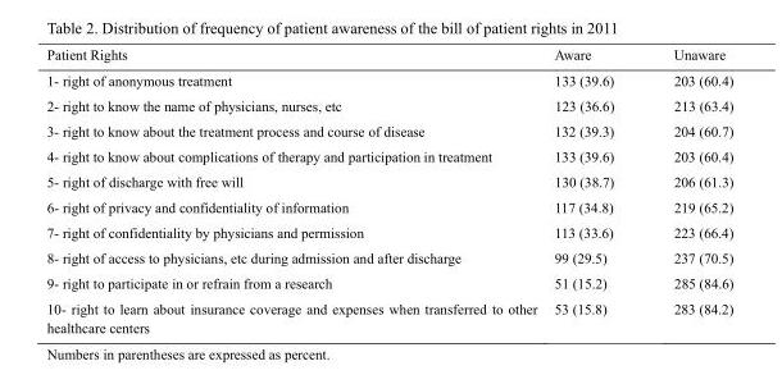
<table><thead><tr><td>Patient Rights</td><td>Aware</td><td>Unaware</td></tr></thead><tbody><tr><td>1- right of anonymous treatment</td><td>133 (39.6)</td><td>203 (60.4)</td></tr><tr><td>2- right to know the name of physicians, nurses, etc</td><td>123 (36.6)</td><td>213 (63.4)</td></tr><tr><td>3- right to know about the treatment process and course of disease</td><td>132 (39.3)</td><td>204 (60.7)</td></tr><tr><td>4- right to know about complications of therapy and participation in treatment</td><td>133 (39.6)</td><td>203 (60.4)</td></tr><tr><td>5- right of discharge with free will</td><td>130 (38.7)</td><td>206 (61.3)</td></tr><tr><td>6- right of privacy and confidentiality of information</td><td>117 (34.8)</td><td>219 (65.2)</td></tr><tr><td>7- right of confidentiality by physicians and permission</td><td>113 (33.6)</td><td>223 (66.4)</td></tr><tr><td>8- right of access to physicians, etc during admission and after discharge</td><td>99 (29.5)</td><td>237 (70.5)</td></tr><tr><td>9- right to participate in or refrain from a research</td><td>51 (15.2)</td><td>285 (84.6)</td></tr><tr><td>10- right to learn about insurance coverage and expenses when transferred to other healthcare centers</td><td>53 (15.8)</td><td>283 (84.2)</td></tr></tbody></table>